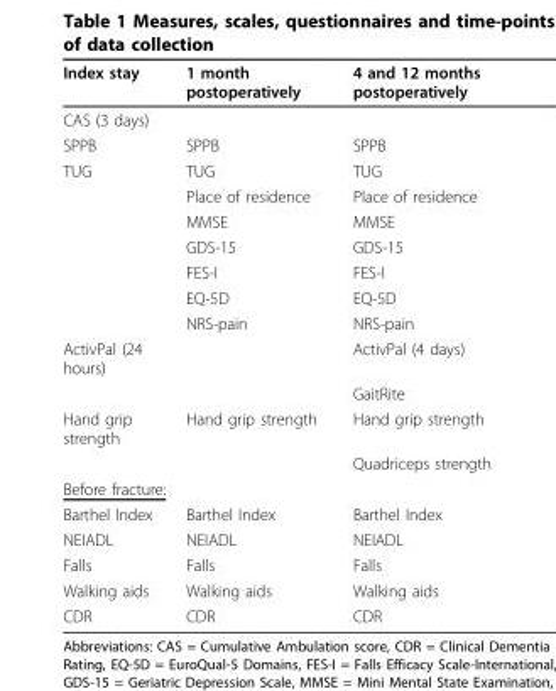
<table><thead><tr><td>Index stay</td><td>1 month postoperatively</td><td>4 and 12 months postoperatively</td></tr></thead><tbody><tr><td colspan="3">CAS (3 days)</td></tr><tr><td>SPPB</td><td>SPPB</td><td>SPPB</td></tr><tr><td rowspan="7">TUG</td><td>TUG</td><td>TUG</td></tr><tr><td>Place of residence</td><td>Place of residence</td></tr><tr><td>MMSE</td><td>MMSE</td></tr><tr><td>GDS-15</td><td>GDS-15</td></tr><tr><td>FES-I</td><td>FES-I</td></tr><tr><td>EQ-5D</td><td>EQ-5D</td></tr><tr><td>NRS-pain</td><td>NRS-pain</td></tr><tr><td rowspan="2">ActivPal (24 hours)</td><td></td><td>ActivPal (4 days)</td></tr><tr><td></td><td>GaitRite</td></tr><tr><td rowspan="2">Hand grip strength</td><td>Hand grip strength</td><td>Hand grip strength</td></tr><tr><td></td><td>Quadriceps strength</td></tr><tr><td colspan="3">Before fracture:</td></tr><tr><td>Barthel Index</td><td>Barthel Index</td><td>Barthel Index</td></tr><tr><td>NEIADL</td><td>NEIADL</td><td>NEIADL</td></tr><tr><td>Falls</td><td>Falls</td><td>Falls</td></tr><tr><td>Walking aids</td><td>Walking aids</td><td>Walking aids</td></tr><tr><td>CDR</td><td>CDR</td><td>CDR</td></tr></tbody></table>